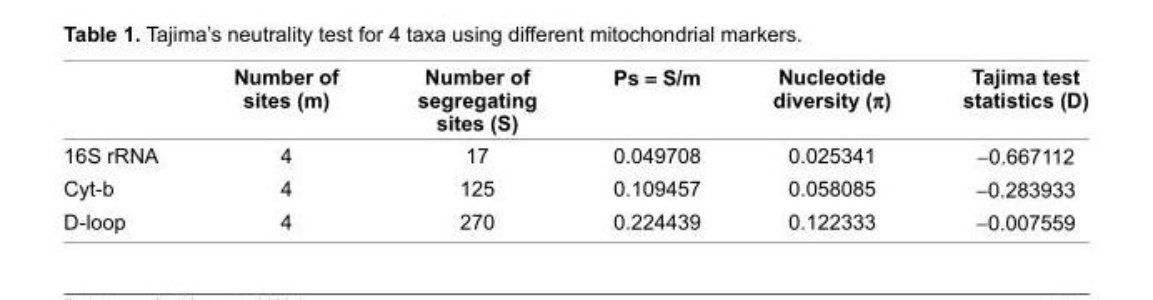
<table><thead><tr><td></td><td>Number of sites (m)</td><td>Number of segregating sites (S)</td><td>Ps = S/m</td><td>Nucleotide diversity (π)</td><td>Tajima test statistics (D)</td></tr></thead><tbody><tr><td>16S rRNA</td><td>4</td><td>17</td><td>0.049708</td><td>0.025341</td><td>−0.667112</td></tr><tr><td>Cyt-b</td><td>4</td><td>125</td><td>0.109457</td><td>0.058085</td><td>−0.283933</td></tr><tr><td>D-loop</td><td>4</td><td>270</td><td>0.224439</td><td>0.122333</td><td>−0.007559</td></tr></tbody></table>